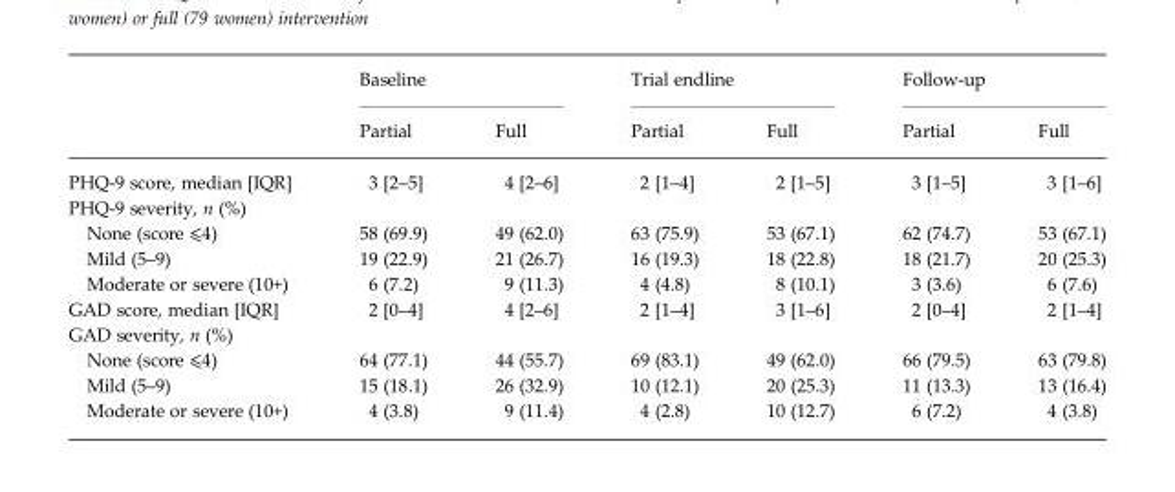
<table><thead><tr><td rowspan="2"></td><td colspan="2">Baseline</td><td colspan="2">Trial endline</td><td colspan="2">Follow-up</td></tr><tr><td>Partial</td><td>Full</td><td>Partial</td><td>Full</td><td>Partial</td><td>Full</td></tr></thead><tbody><tr><td>PHQ-9 score, median [IQR]</td><td>3 [2–5]</td><td>4 [2–6]</td><td>2 [1–4]</td><td>2 [1–5]</td><td>3 [1–5]</td><td>3 [1–6]</td></tr><tr><td colspan="7">PHQ-9 severity, n (%)</td></tr><tr><td>None (score ⩽4)</td><td>58 (69.9)</td><td>49 (62.0)</td><td>63 (75.9)</td><td>53 (67.1)</td><td>62 (74.7)</td><td>53 (67.1)</td></tr><tr><td>Mild (5–9)</td><td>19 (22.9)</td><td>21 (26.7)</td><td>16 (19.3)</td><td>18 (22.8)</td><td>18 (21.7)</td><td>20 (25.3)</td></tr><tr><td>Moderate or severe (10+)</td><td>6 (7.2)</td><td>9 (11.3)</td><td>4 (4.8)</td><td>8 (10.1)</td><td>3 (3.6)</td><td>6 (7.6)</td></tr><tr><td>GAD score, median [IQR]</td><td>2 [0–4]</td><td>4 [2–6]</td><td>2 [1–4]</td><td>3 [1–6]</td><td>2 [0–4]</td><td>2 [1–4]</td></tr><tr><td colspan="7">GAD severity, n (%)</td></tr><tr><td>None (score ⩽4)</td><td>64 (77.1)</td><td>44 (55.7)</td><td>69 (83.1)</td><td>49 (62.0)</td><td>66 (79.5)</td><td>63 (79.8)</td></tr><tr><td>Mild (5–9)</td><td>15 (18.1)</td><td>26 (32.9)</td><td>10 (12.1)</td><td>20 (25.3)</td><td>11 (13.3)</td><td>13 (16.4)</td></tr><tr><td>Moderate or severe (10+)</td><td>4 (3.8)</td><td>9 (11.4)</td><td>4 (2.8)</td><td>10 (12.7)</td><td>6 (7.2)</td><td>4 (3.8)</td></tr></tbody></table>